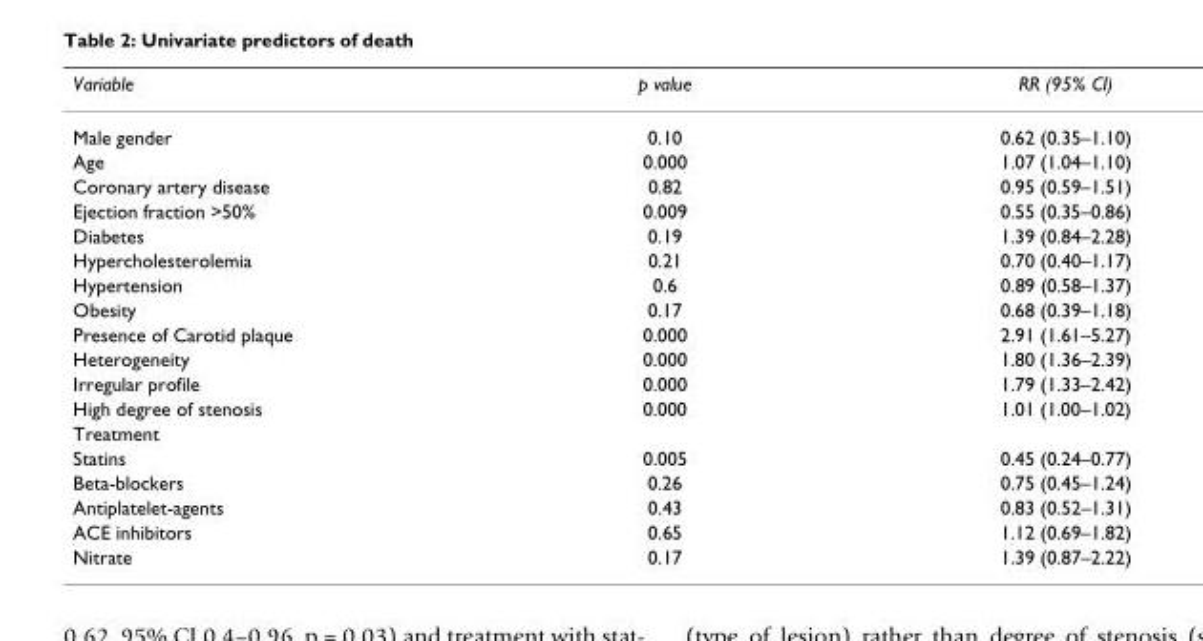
<table><thead><tr><td>Variable</td><td>p value</td><td>RR (95% CI)</td></tr></thead><tbody><tr><td>Male gender</td><td>0.10</td><td>0.62 (0.35–1.10)</td></tr><tr><td>Age</td><td>0.000</td><td>1.07 (1.04–1.10)</td></tr><tr><td>Coronary artery disease</td><td>0.82</td><td>0.95 (0.59–1.51)</td></tr><tr><td>Ejection fraction &gt;50%</td><td>0.009</td><td>0.55 (0.35–0.86)</td></tr><tr><td>Diabetes</td><td>0.19</td><td>1.39 (0.84–2.28)</td></tr><tr><td>Hypercholesterolemia</td><td>0.21</td><td>0.70 (0.40–1.17)</td></tr><tr><td>Hypertension</td><td>0.6</td><td>0.89 (0.58–1.37)</td></tr><tr><td>Obesity</td><td>0.17</td><td>0.68 (0.39–1.18)</td></tr><tr><td>Presence of Carotid plaque</td><td>0.000</td><td>2.91 (1.61–5.27)</td></tr><tr><td>Heterogeneity</td><td>0.000</td><td>1.80 (1.36–2.39)</td></tr><tr><td>Irregular profile</td><td>0.000</td><td>1.79 (1.33–2.42)</td></tr><tr><td>High degree of stenosis</td><td>0.000</td><td>1.01 (1.00–1.02)</td></tr><tr><td colspan="3">Treatment</td></tr><tr><td>Statins</td><td>0.005</td><td>0.45 (0.24–0.77)</td></tr><tr><td>Beta-blockers</td><td>0.26</td><td>0.75 (0.45–1.24)</td></tr><tr><td>Antiplatelet-agents</td><td>0.43</td><td>0.83 (0.52–1.31)</td></tr><tr><td>ACE inhibitors</td><td>0.65</td><td>1.12 (0.69–1.82)</td></tr><tr><td>Nitrate</td><td>0.17</td><td>1.39 (0.87–2.22)</td></tr></tbody></table>